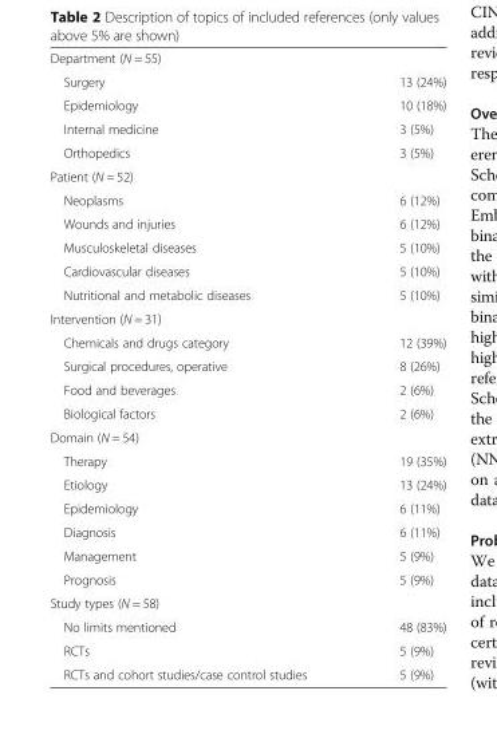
<table><tbody><tr><td colspan="2">Department (N = 55)</td></tr><tr><td>Surgery</td><td>13 (24%)</td></tr><tr><td>Epidemiology</td><td>10 (18%)</td></tr><tr><td>Internal medicine</td><td>3 (5%)</td></tr><tr><td>Orthopedics</td><td>3 (5%)</td></tr><tr><td colspan="2">Patient (N = 52)</td></tr><tr><td>Neoplasms</td><td>6 (12%)</td></tr><tr><td>Wounds and injuries</td><td>6 (12%)</td></tr><tr><td>Musculoskeletal diseases</td><td>5 (10%)</td></tr><tr><td>Cardiovascular diseases</td><td>5 (10%)</td></tr><tr><td>Nutritional and metabolic diseases</td><td>5 (10%)</td></tr><tr><td colspan="2">Intervention (N = 31)</td></tr><tr><td>Chemicals and drugs category</td><td>12 (39%)</td></tr><tr><td>Surgical procedures, operative</td><td>8 (26%)</td></tr><tr><td>Food and beverages</td><td>2 (6%)</td></tr><tr><td>Biological factors</td><td>2 (6%)</td></tr><tr><td colspan="2">Domain (N = 54)</td></tr><tr><td>Therapy</td><td>19 (35%)</td></tr><tr><td>Etiology</td><td>13 (24%)</td></tr><tr><td>Epidemiology</td><td>6 (11%)</td></tr><tr><td>Diagnosis</td><td>6 (11%)</td></tr><tr><td>Management</td><td>5 (9%)</td></tr><tr><td>Prognosis</td><td>5 (9%)</td></tr><tr><td colspan="2">Study types (N = 58)</td></tr><tr><td>No limits mentioned</td><td>48 (83%)</td></tr><tr><td>RCTs</td><td>5 (9%)</td></tr><tr><td>RCTs and cohort studies/case control studies</td><td>5 (9%)</td></tr></tbody></table>